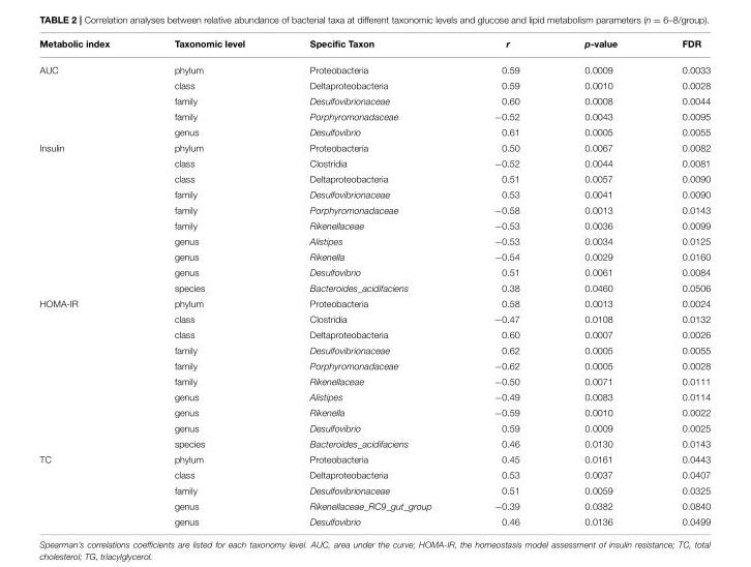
<table><thead><tr><td>Metabolic index</td><td>Taxonomic level</td><td>Specific Taxon</td><td>r</td><td>p-value</td><td>FDR</td></tr></thead><tbody><tr><td rowspan="5">AUC</td><td>phylum</td><td>Proteobacteria</td><td>0.59</td><td>0.0009</td><td>0.0033</td></tr><tr><td>class</td><td>Deltaproteobacteria</td><td>0.59</td><td>0.0010</td><td>0.0028</td></tr><tr><td>family</td><td>Desulfovibrionaceae</td><td>0.60</td><td>0.0008</td><td>0.0044</td></tr><tr><td>family</td><td>Porphyromonadaceae</td><td>−0.52</td><td>0.0043</td><td>0.0095</td></tr><tr><td>genus</td><td>Desulfovibrio</td><td>0.61</td><td>0.0005</td><td>0.0055</td></tr><tr><td rowspan="10">Insulin</td><td>phylum</td><td>Proteobacteria</td><td>0.50</td><td>0.0067</td><td>0.0082</td></tr><tr><td>class</td><td>Clostridia</td><td>−0.52</td><td>0.0044</td><td>0.0081</td></tr><tr><td>class</td><td>Deltaproteobacteria</td><td>0.51</td><td>0.0057</td><td>0.0090</td></tr><tr><td>family</td><td>Desulfovibrionaceae</td><td>0.53</td><td>0.0041</td><td>0.0090</td></tr><tr><td>family</td><td>Porphyromonadaceae</td><td>−0.58</td><td>0.0013</td><td>0.0143</td></tr><tr><td>family</td><td>Rikenellaceae</td><td>−0.53</td><td>0.0036</td><td>0.0099</td></tr><tr><td>genus</td><td>Alistipes</td><td>−0.53</td><td>0.0034</td><td>0.0125</td></tr><tr><td>genus</td><td>Rikenella</td><td>−0.54</td><td>0.0029</td><td>0.0160</td></tr><tr><td>genus</td><td>Desulfovibrio</td><td>0.51</td><td>0.0061</td><td>0.0084</td></tr><tr><td>species</td><td>Bacteroides_acidifaciens</td><td>0.38</td><td>0.0460</td><td>0.0506</td></tr><tr><td rowspan="10">HOMA-IR</td><td>phylum</td><td>Proteobacteria</td><td>0.58</td><td>0.0013</td><td>0.0024</td></tr><tr><td>class</td><td>Clostridia</td><td>−0.47</td><td>0.0108</td><td>0.0132</td></tr><tr><td>class</td><td>Deltaproteobacteria</td><td>0.60</td><td>0.0007</td><td>0.0026</td></tr><tr><td>family</td><td>Desulfovibrionaceae</td><td>0.62</td><td>0.0005</td><td>0.0055</td></tr><tr><td>family</td><td>Porphyromonadaceae</td><td>−0.62</td><td>0.0005</td><td>0.0028</td></tr><tr><td>family</td><td>Rikenellaceae</td><td>−0.50</td><td>0.0071</td><td>0.0111</td></tr><tr><td>genus</td><td>Alistipes</td><td>−0.49</td><td>0.0083</td><td>0.0114</td></tr><tr><td>genus</td><td>Rikenella</td><td>−0.59</td><td>0.0010</td><td>0.0022</td></tr><tr><td>genus</td><td>Desulfovibrio</td><td>0.59</td><td>0.0009</td><td>0.0025</td></tr><tr><td>species</td><td>Bacteroides_acidifaciens</td><td>0.46</td><td>0.0130</td><td>0.0143</td></tr><tr><td rowspan="5">TC</td><td>phylum</td><td>Proteobacteria</td><td>0.45</td><td>0.0161</td><td>0.0443</td></tr><tr><td>class</td><td>Deltaproteobacteria</td><td>0.53</td><td>0.0037</td><td>0.0407</td></tr><tr><td>family</td><td>Desulfovibrionaceae</td><td>0.51</td><td>0.0059</td><td>0.0325</td></tr><tr><td>genus</td><td>Rikenellaceae_RC9_gut_group</td><td>−0.39</td><td>0.0382</td><td>0.0840</td></tr><tr><td>genus</td><td>Desulfovibrio</td><td>0.46</td><td>0.0136</td><td>0.0499</td></tr></tbody></table>